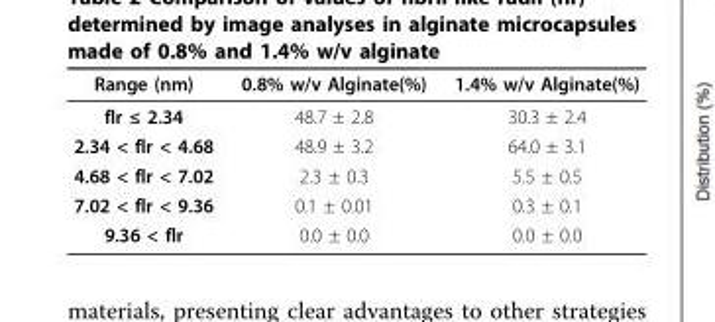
<table><thead><tr><td>Range (nm)</td><td>0.8% w/v Alginate(%)</td><td>1.4% w/v Alginate(%)</td></tr></thead><tbody><tr><td>flr ≤ 2.34</td><td>48.7 ± 2.8</td><td>30.3 ± 2.4</td></tr><tr><td>2.34 &lt; flr &lt; 4.68</td><td>48.9 ± 3.2</td><td>64.0 ± 3.1</td></tr><tr><td>4.68 &lt; flr &lt; 7.02</td><td>2.3 ± 0.3</td><td>5.5 ± 0.5</td></tr><tr><td>7.02 &lt; flr &lt; 9.36</td><td>0.1 ± 0.01</td><td>0.3 ± 0.1</td></tr><tr><td>9.36 &lt; flr</td><td>0.0 ± 0.0</td><td>0.0 ± 0.0</td></tr></tbody></table>